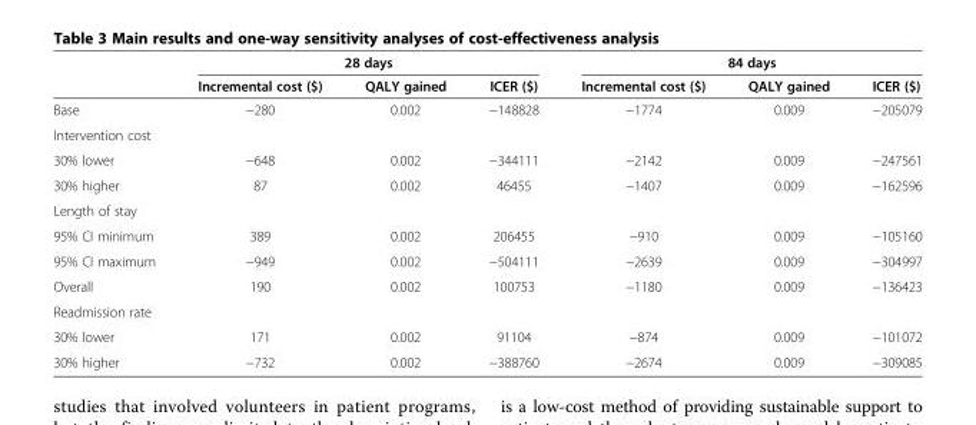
<table><thead><tr><td rowspan="2"></td><td colspan="3">28 days</td><td colspan="3">84 days</td></tr><tr><td>Incremental cost ($)</td><td>QALY gained</td><td>ICER ($)</td><td>Incremental cost ($)</td><td>QALY gained</td><td>ICER ($)</td></tr></thead><tbody><tr><td>Base</td><td>−280</td><td>0.002</td><td>−148828</td><td>−1774</td><td>0.009</td><td>−205079</td></tr><tr><td colspan="7">Intervention cost</td></tr><tr><td>30% lower</td><td>−648</td><td>0.002</td><td>−344111</td><td>−2142</td><td>0.009</td><td>−247561</td></tr><tr><td>30% higher</td><td>87</td><td>0.002</td><td>46455</td><td>−1407</td><td>0.009</td><td>−162596</td></tr><tr><td colspan="7">Length of stay</td></tr><tr><td>95% CI minimum</td><td>389</td><td>0.002</td><td>206455</td><td>−910</td><td>0.009</td><td>−105160</td></tr><tr><td>95% CI maximum</td><td>−949</td><td>0.002</td><td>−504111</td><td>−2639</td><td>0.009</td><td>−304997</td></tr><tr><td>Overall</td><td>190</td><td>0.002</td><td>100753</td><td>−1180</td><td>0.009</td><td>−136423</td></tr><tr><td colspan="7">Readmission rate</td></tr><tr><td>30% lower</td><td>171</td><td>0.002</td><td>91104</td><td>−874</td><td>0.009</td><td>−101072</td></tr><tr><td>30% higher</td><td>−732</td><td>0.002</td><td>−388760</td><td>−2674</td><td>0.009</td><td>−309085</td></tr></tbody></table>